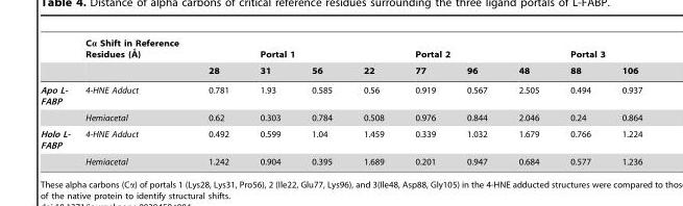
<table><thead><tr><td rowspan="2"></td><td rowspan="2">Ca Shift in Reference Residues (A˚)</td><td rowspan="2">28</td><td rowspan="2">Portal 1 31</td><td rowspan="2">56</td><td rowspan="2">22</td><td rowspan="2">Portal 2 77</td><td rowspan="2">96</td><td rowspan="2">48</td><td rowspan="2">Portal 3 88</td><td rowspan="2">106</td></tr><tr></tr></thead><tbody><tr><td rowspan="2">Apo L- FABP</td><td>4-HNE Adduct</td><td>0.781</td><td>1.93</td><td>0.585</td><td>0.56</td><td>0.919</td><td>0.567</td><td>2.505</td><td>0.494</td><td>0.937</td></tr><tr><td>Hemiacetal</td><td>0.62</td><td>0.303</td><td>0.784</td><td>0.508</td><td>0.976</td><td>0.844</td><td>2.046</td><td>0.24</td><td>0.864</td></tr><tr><td rowspan="2">Holo L- FABP</td><td>4-HNE Adduct</td><td>0.492</td><td>0.599</td><td>1.04</td><td>1.459</td><td>0.339</td><td>1.032</td><td>1.679</td><td>0.766</td><td>1.224</td></tr><tr><td>Hemiacetal</td><td>1.242</td><td>0.904</td><td>0.395</td><td>1.689</td><td>0.201</td><td>0.947</td><td>0.684</td><td>0.577</td><td>1.236</td></tr></tbody></table>